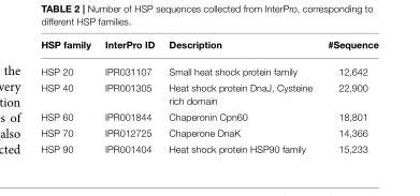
<table><thead><tr><td>HSP family</td><td>InterPro ID</td><td>Description</td><td>#Sequence</td></tr></thead><tbody><tr><td>HSP 20</td><td>IPR031107</td><td>Small heat shock protein family</td><td>12,642</td></tr><tr><td>HSP 40</td><td>IPR001305</td><td>Heat shock protein DnaJ, Cysteine rich domain</td><td>22,900</td></tr><tr><td>HSP 60</td><td>IPR001844</td><td>Chaperonin Cpn60</td><td>18,801</td></tr><tr><td>HSP 70</td><td>IPR012725</td><td>Chaperone DnaK</td><td>14,366</td></tr><tr><td>HSP 90</td><td>IPR001404</td><td>Heat shock protein HSP90 family</td><td>15,233</td></tr></tbody></table>